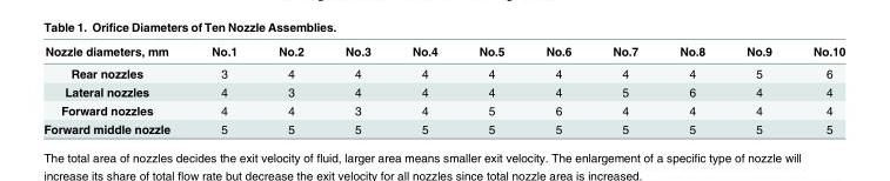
<table><thead><tr><td>Nozzle diameters, mm</td><td>No.1</td><td>No.2</td><td>No.3</td><td>No.4</td><td>No.5</td><td>No.6</td><td>No.7</td><td>No.8</td><td>No.9</td><td>No.10</td></tr></thead><tbody><tr><td>Rear nozzles</td><td>3</td><td>4</td><td>4</td><td>4</td><td>4</td><td>4</td><td>4</td><td>4</td><td>5</td><td>6</td></tr><tr><td>Lateral nozzles</td><td>4</td><td>3</td><td>4</td><td>4</td><td>4</td><td>4</td><td>5</td><td>6</td><td>4</td><td>4</td></tr><tr><td>Forward nozzles</td><td>4</td><td>4</td><td>3</td><td>4</td><td>5</td><td>6</td><td>4</td><td>4</td><td>4</td><td>4</td></tr><tr><td>Forward middle nozzle</td><td>5</td><td>5</td><td>5</td><td>5</td><td>5</td><td>5</td><td>5</td><td>5</td><td>5</td><td>5</td></tr></tbody></table>